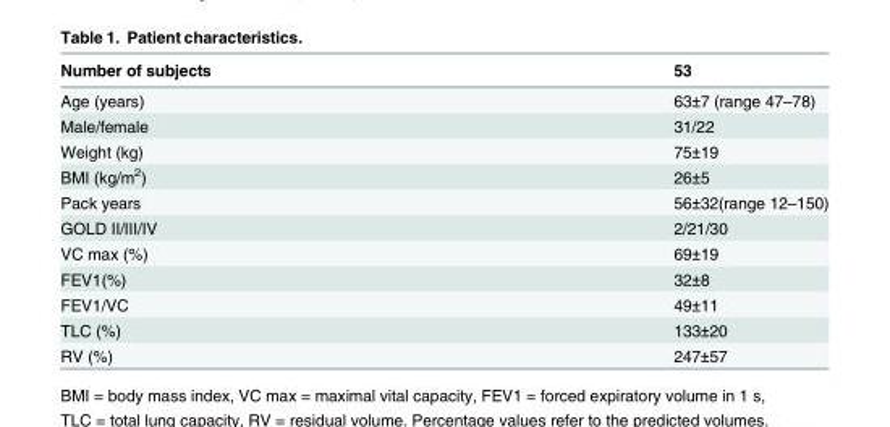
<table><thead><tr><td>Number of subjects</td><td>53</td></tr></thead><tbody><tr><td>Age (years)</td><td>63±7 (range 47–78)</td></tr><tr><td>Male/female</td><td>31/22</td></tr><tr><td>Weight (kg)</td><td>75±19</td></tr><tr><td>BMI (kg/m<sup>2</sup>)</td><td>26±5</td></tr><tr><td>Pack years</td><td>56±32(range 12–150)</td></tr><tr><td>GOLD II/III/IV</td><td>2/21/30</td></tr><tr><td>VC max (%)</td><td>69±19</td></tr><tr><td>FEV1(%)</td><td>32±8</td></tr><tr><td>FEV1/VC</td><td>49±11</td></tr><tr><td>TLC (%)</td><td>133±20</td></tr><tr><td>RV (%)</td><td>247±57</td></tr></tbody></table>